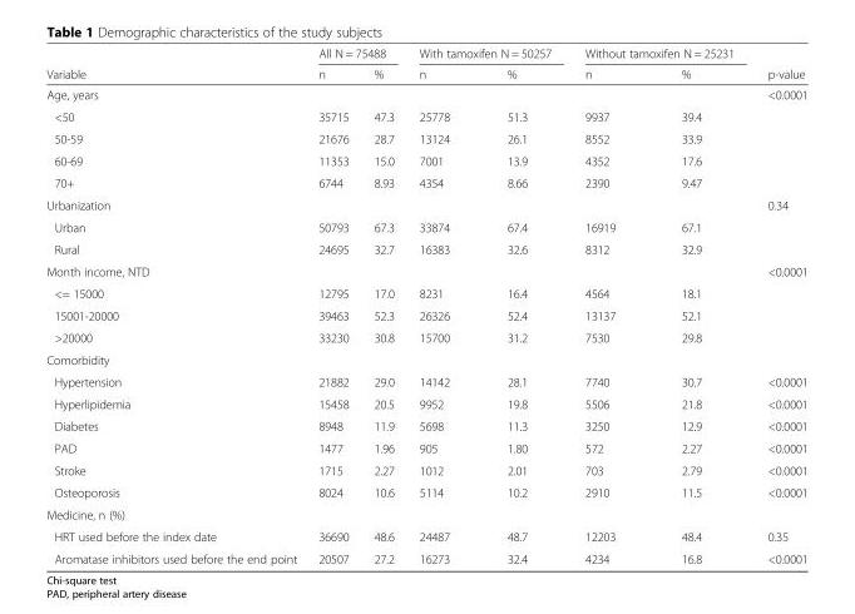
<table><thead><tr><td rowspan="2">Variable</td><td colspan="2">All N = 75488</td><td colspan="2">With tamoxifen N = 50257</td><td colspan="2">Without tamoxifen N = 25231</td><td rowspan="2">p-value</td></tr><tr><td>n</td><td>%</td><td>n</td><td>%</td><td>n</td><td>%</td></tr></thead><tbody><tr><td>Age, years</td><td></td><td></td><td></td><td></td><td></td><td></td><td>&lt;0.0001</td></tr><tr><td>&lt;50</td><td>35715</td><td>47.3</td><td>25778</td><td>51.3</td><td>9937</td><td>39.4</td><td></td></tr><tr><td>50-59</td><td>21676</td><td>28.7</td><td>13124</td><td>26.1</td><td>8552</td><td>33.9</td><td></td></tr><tr><td>60-69</td><td>11353</td><td>15.0</td><td>7001</td><td>13.9</td><td>4352</td><td>17.6</td><td></td></tr><tr><td>70+</td><td>6744</td><td>8.93</td><td>4354</td><td>8.66</td><td>2390</td><td>9.47</td><td></td></tr><tr><td>Urbanization</td><td></td><td></td><td></td><td></td><td></td><td></td><td>0.34</td></tr><tr><td>Urban</td><td>50793</td><td>67.3</td><td>33874</td><td>67.4</td><td>16919</td><td>67.1</td><td></td></tr><tr><td>Rural</td><td>24695</td><td>32.7</td><td>16383</td><td>32.6</td><td>8312</td><td>32.9</td><td></td></tr><tr><td>Month income, NTD</td><td></td><td></td><td></td><td></td><td></td><td></td><td>&lt;0.0001</td></tr><tr><td>&lt;= 15000</td><td>12795</td><td>17.0</td><td>8231</td><td>16.4</td><td>4564</td><td>18.1</td><td></td></tr><tr><td>15001-20000</td><td>39463</td><td>52.3</td><td>26326</td><td>52.4</td><td>13137</td><td>52.1</td><td></td></tr><tr><td>&gt;20000</td><td>33230</td><td>30.8</td><td>15700</td><td>31.2</td><td>7530</td><td>29.8</td><td></td></tr><tr><td colspan="8">Comorbidity</td></tr><tr><td>Hypertension</td><td>21882</td><td>29.0</td><td>14142</td><td>28.1</td><td>7740</td><td>30.7</td><td>&lt;0.0001</td></tr><tr><td>Hyperlipidemia</td><td>15458</td><td>20.5</td><td>9952</td><td>19.8</td><td>5506</td><td>21.8</td><td>&lt;0.0001</td></tr><tr><td>Diabetes</td><td>8948</td><td>11.9</td><td>5698</td><td>11.3</td><td>3250</td><td>12.9</td><td>&lt;0.0001</td></tr><tr><td>PAD</td><td>1477</td><td>1.96</td><td>905</td><td>1.80</td><td>572</td><td>2.27</td><td>&lt;0.0001</td></tr><tr><td>Stroke</td><td>1715</td><td>2.27</td><td>1012</td><td>2.01</td><td>703</td><td>2.79</td><td>&lt;0.0001</td></tr><tr><td>Osteoporosis</td><td>8024</td><td>10.6</td><td>5114</td><td>10.2</td><td>2910</td><td>11.5</td><td>&lt;0.0001</td></tr><tr><td colspan="8">Medicine, n (%)</td></tr><tr><td>HRT used before the index date</td><td>36690</td><td>48.6</td><td>24487</td><td>48.7</td><td>12203</td><td>48.4</td><td>0.35</td></tr><tr><td>Aromatase inhibitors used before the end point</td><td>20507</td><td>27.2</td><td>16273</td><td>32.4</td><td>4234</td><td>16.8</td><td>&lt;0.0001</td></tr></tbody></table>